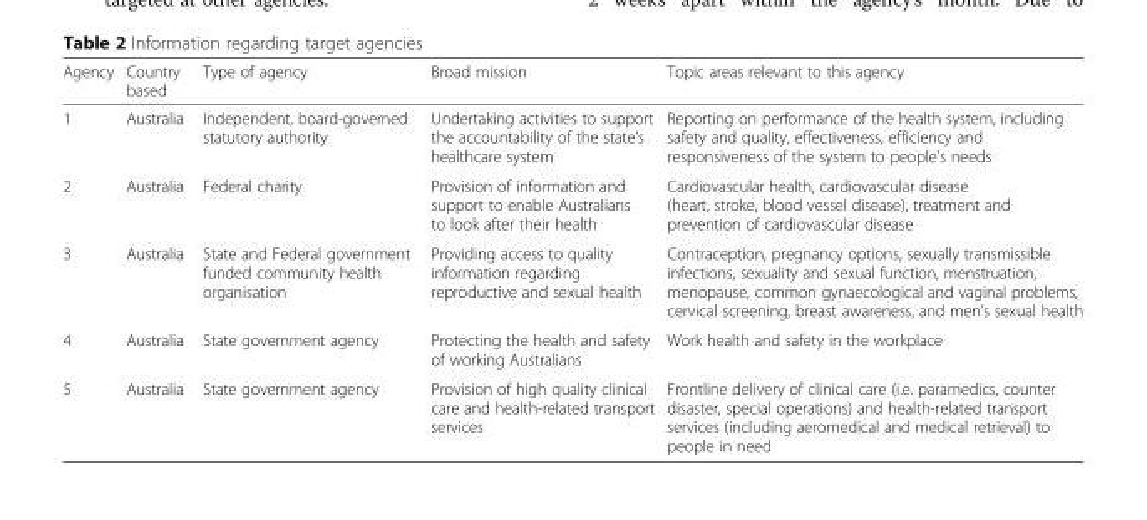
<table><thead><tr><td>Agency</td><td>Country based</td><td>Type of agency</td><td>Broad mission</td><td>Topic areas relevant to this agency</td></tr></thead><tbody><tr><td>1</td><td>Australia</td><td>Independent, board-governed statutory authority</td><td>Undertaking activities to support the accountability of the state’s healthcare system</td><td>Reporting on performance of the health system, including safety and quality, effectiveness, efficiency and responsiveness of the system to people’s needs</td></tr><tr><td>2</td><td>Australia</td><td>Federal charity</td><td>Provision of information and support to enable Australians to look after their health</td><td>Cardiovascular health, cardiovascular disease (heart, stroke, blood vessel disease), treatment and prevention of cardiovascular disease</td></tr><tr><td>3</td><td>Australia</td><td>State and Federal government funded community health organisation</td><td>Providing access to quality information regarding reproductive and sexual health</td><td>Contraception, pregnancy options, sexually transmissible infections, sexuality and sexual function, menstruation, menopause, common gynaecological and vaginal problems, cervical screening, breast awareness, and men’s sexual health</td></tr><tr><td>4</td><td>Australia</td><td>State government agency</td><td>Protecting the health and safety of working Australians</td><td>Work health and safety in the workplace</td></tr><tr><td>5</td><td>Australia</td><td>State government agency</td><td>Provision of high quality clinical care and health-related transport services</td><td>Frontline delivery of clinical care (i.e. paramedics, counter disaster, special operations) and health-related transport services (including aeromedical and medical retrieval) to people in need</td></tr></tbody></table>